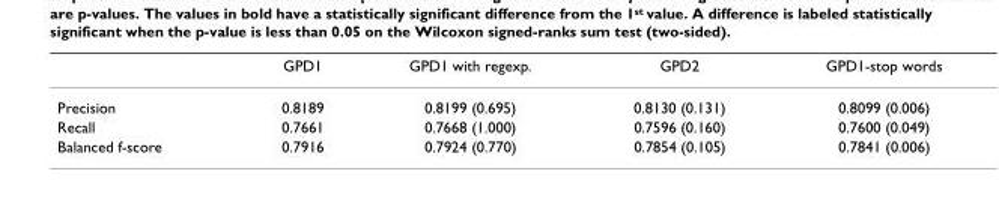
<table><thead><tr><td></td><td>GPD1</td><td>GPD1 with regexp.</td><td>GPD2</td><td>GPD1-stop words</td></tr></thead><tbody><tr><td>Precision</td><td>0.8189</td><td>0.8199 (0.695)</td><td>0.8130 (0.131)</td><td>0.8099 (0.006)</td></tr><tr><td>Recall</td><td>0.7661</td><td>0.7668 (1.000)</td><td>0.7596 (0.160)</td><td>0.7600 (0.049)</td></tr><tr><td>Balanced f-score</td><td>0.7916</td><td>0.7924 (0.770)</td><td>0.7854 (0.105)</td><td>0.7841 (0.006)</td></tr></tbody></table>